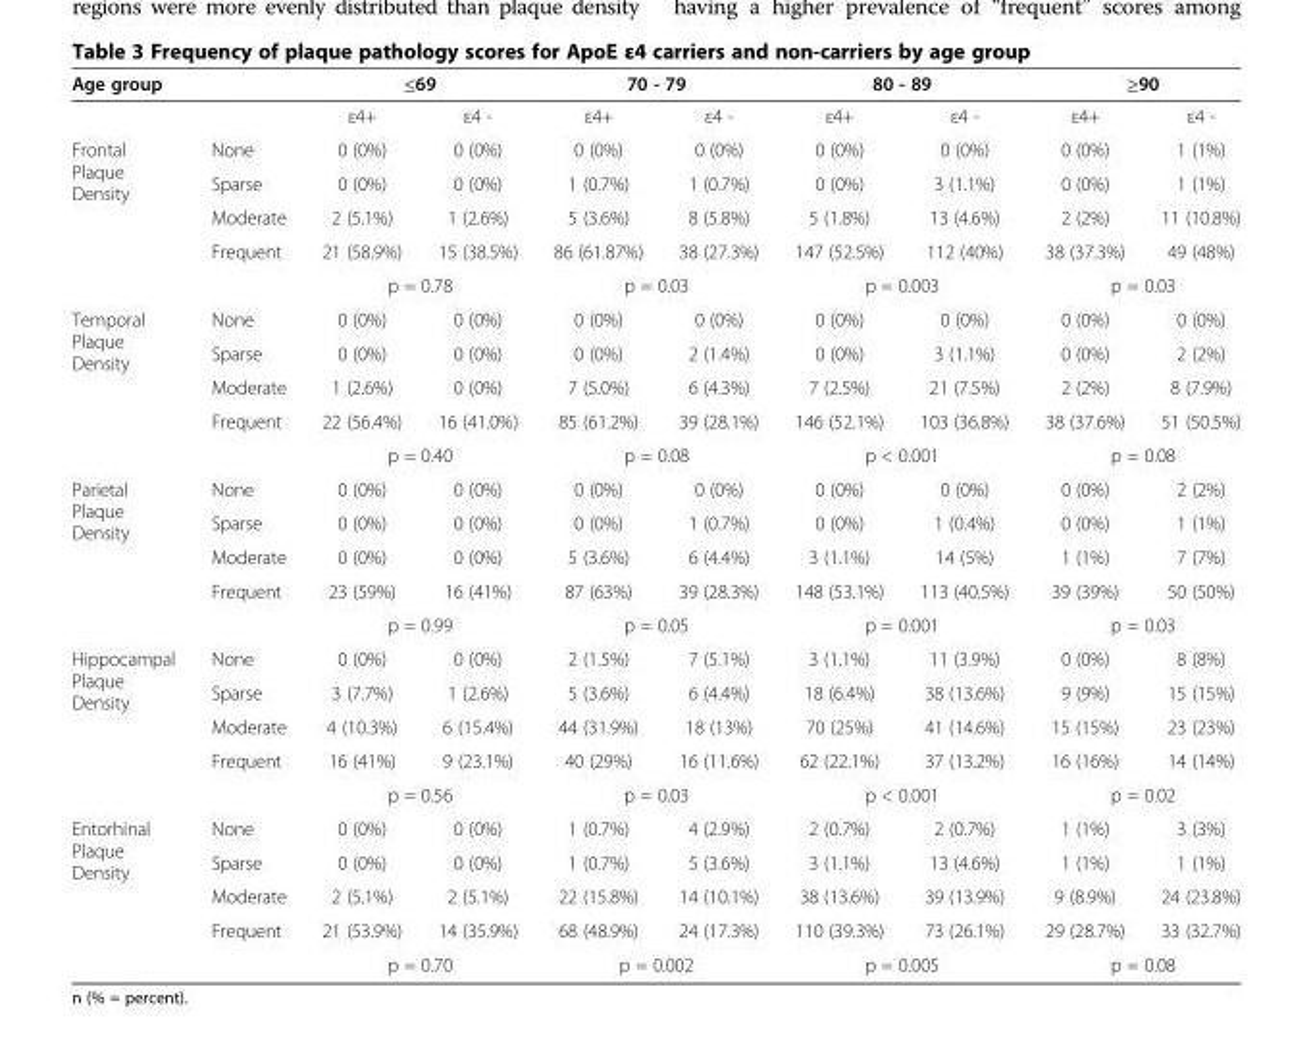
<table><thead><tr><td rowspan="2">Age group</td><td rowspan="2"></td><td colspan="2">≤69</td><td colspan="2">70 - 79</td><td colspan="2">80 - 89</td><td colspan="2">≥90</td></tr><tr><td>ε4+</td><td>ε4 -</td><td>ε4+</td><td>ε4 -</td><td>ε4+</td><td>ε4 -</td><td>ε4+</td><td>ε4 -</td></tr></thead><tbody><tr><td rowspan="5">Frontal Plaque Density</td><td>None</td><td>0 (0%)</td><td>0 (0%)</td><td>0 (0%)</td><td>0 (0%)</td><td>0 (0%)</td><td>0 (0%)</td><td>0 (0%)</td><td>1 (1%)</td></tr><tr><td>Sparse</td><td>0 (0%)</td><td>0 (0%)</td><td>1 (0.7%)</td><td>1 (0.7%)</td><td>0 (0%)</td><td>3 (1.1%)</td><td>0 (0%)</td><td>1 (1%)</td></tr><tr><td>Moderate</td><td>2 (5.1%)</td><td>1 (2.6%)</td><td>5 (3.6%)</td><td>8 (5.8%)</td><td>5 (1.8%)</td><td>13 (4.6%)</td><td>2 (2%)</td><td>11 (10.8%)</td></tr><tr><td>Frequent</td><td>21 (58.9%)</td><td>15 (38.5%)</td><td>86 (61.87%)</td><td>38 (27.3%)</td><td>147 (52.5%)</td><td>112 (40%)</td><td>38 (37.3%)</td><td>49 (48%)</td></tr><tr><td></td><td colspan="2">p = 0.78</td><td colspan="2">p = 0.03</td><td colspan="2">p = 0.003</td><td colspan="2">p = 0.03</td></tr><tr><td rowspan="5">Temporal Plaque Density</td><td>None</td><td>0 (0%)</td><td>0 (0%)</td><td>0 (0%)</td><td>0 (0%)</td><td>0 (0%)</td><td>0 (0%)</td><td>0 (0%)</td><td>0 (0%)</td></tr><tr><td>Sparse</td><td>0 (0%)</td><td>0 (0%)</td><td>0 (0%)</td><td>2 (1.4%)</td><td>0 (0%)</td><td>3 (1.1%)</td><td>0 (0%)</td><td>2 (2%)</td></tr><tr><td>Moderate</td><td>1 (2.6%)</td><td>0 (0%)</td><td>7 (5.0%)</td><td>6 (4.3%)</td><td>7 (2.5%)</td><td>21 (7.5%)</td><td>2 (2%)</td><td>8 (7.9%)</td></tr><tr><td>Frequent</td><td>22 (56.4%)</td><td>16 (41.0%)</td><td>85 (61.2%)</td><td>39 (28.1%)</td><td>146 (52.1%)</td><td>103 (36.8%)</td><td>38 (37.6%)</td><td>51 (50.5%)</td></tr><tr><td></td><td colspan="2">p = 0.40</td><td colspan="2">p = 0.08</td><td colspan="2">p &lt; 0.001</td><td colspan="2">p = 0.08</td></tr><tr><td rowspan="5">Parietal Plaque Density</td><td>None</td><td>0 (0%)</td><td>0 (0%)</td><td>0 (0%)</td><td>0 (0%)</td><td>0 (0%)</td><td>0 (0%)</td><td>0 (0%)</td><td>2 (2%)</td></tr><tr><td>Sparse</td><td>0 (0%)</td><td>0 (0%)</td><td>0 (0%)</td><td>1 (0.7%)</td><td>0 (0%)</td><td>1 (0.4%)</td><td>0 (0%)</td><td>1 (1%)</td></tr><tr><td>Moderate</td><td>0 (0%)</td><td>0 (0%)</td><td>5 (3.6%)</td><td>6 (4.4%)</td><td>3 (1.1%)</td><td>14 (5%)</td><td>1 (1%)</td><td>7 (7%)</td></tr><tr><td>Frequent</td><td>23 (59%)</td><td>16 (41%)</td><td>87 (63%)</td><td>39 (28.3%)</td><td>148 (53.1%)</td><td>113 (40.5%)</td><td>39 (39%)</td><td>50 (50%)</td></tr><tr><td></td><td colspan="2">p = 0.99</td><td colspan="2">p = 0.05</td><td colspan="2">p = 0.001</td><td colspan="2">p = 0.03</td></tr><tr><td rowspan="5">Hippocampal Plaque Density</td><td>None</td><td>0 (0%)</td><td>0 (0%)</td><td>2 (1.5%)</td><td>7 (5.1%)</td><td>3 (1.1%)</td><td>11 (3.9%)</td><td>0 (0%)</td><td>8 (8%)</td></tr><tr><td>Sparse</td><td>3 (7.7%)</td><td>1 (2.6%)</td><td>5 (3.6%)</td><td>6 (4.4%)</td><td>18 (6.4%)</td><td>38 (13.6%)</td><td>9 (9%)</td><td>15 (15%)</td></tr><tr><td>Moderate</td><td>4 (10.3%)</td><td>6 (15.4%)</td><td>44 (31.9%)</td><td>18 (13%)</td><td>70 (25%)</td><td>41 (14.6%)</td><td>15 (15%)</td><td>23 (23%)</td></tr><tr><td>Frequent</td><td>16 (41%)</td><td>9 (23.1%)</td><td>40 (29%)</td><td>16 (11.6%)</td><td>62 (22.1%)</td><td>37 (13.2%)</td><td>16 (16%)</td><td>14 (14%)</td></tr><tr><td></td><td colspan="2">p = 0.56</td><td colspan="2">p = 0.03</td><td colspan="2">p &lt; 0.001</td><td colspan="2">p = 0.02</td></tr><tr><td rowspan="5">Entorhinal Plaque Density</td><td>None</td><td>0 (0%)</td><td>0 (0%)</td><td>1 (0.7%)</td><td>4 (2.9%)</td><td>2 (0.7%)</td><td>2 (0.7%)</td><td>1 (1%)</td><td>3 (3%)</td></tr><tr><td>Sparse</td><td>0 (0%)</td><td>0 (0%)</td><td>1 (0.7%)</td><td>5 (3.6%)</td><td>3 (1.1%)</td><td>13 (4.6%)</td><td>1 (1%)</td><td>1 (1%)</td></tr><tr><td>Moderate</td><td>2 (5.1%)</td><td>2 (5.1%)</td><td>22 (15.8%)</td><td>14 (10.1%)</td><td>38 (13.6%)</td><td>39 (13.9%)</td><td>9 (8.9%)</td><td>24 (23.8%)</td></tr><tr><td>Frequent</td><td>21 (53.9%)</td><td>14 (35.9%)</td><td>68 (48.9%)</td><td>24 (17.3%)</td><td>110 (39.3%)</td><td>73 (26.1%)</td><td>29 (28.7%)</td><td>33 (32.7%)</td></tr><tr><td></td><td colspan="2">p = 0.70</td><td colspan="2">p = 0.002</td><td colspan="2">p = 0.005</td><td colspan="2">p = 0.08</td></tr></tbody></table>